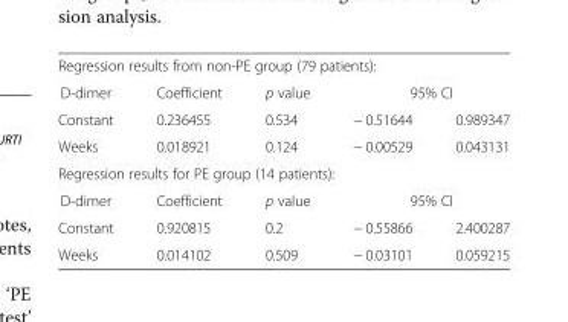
<table><tbody><tr><td colspan="5">Regression results from non-PE group (79 patients):</td></tr><tr><td>D-dimer</td><td>Coefficient</td><td>p value</td><td colspan="2">95% CI</td></tr><tr><td>Constant</td><td>0.236455</td><td>0.534</td><td>− 0.51644</td><td>0.989347</td></tr><tr><td>Weeks</td><td>0.018921</td><td>0.124</td><td>− 0.00529</td><td>0.043131</td></tr><tr><td colspan="5">Regression results for PE group (14 patients):</td></tr><tr><td>D-dimer</td><td>Coefficient</td><td>p value</td><td colspan="2">95% CI</td></tr><tr><td>Constant</td><td>0.920815</td><td>0.2</td><td>− 0.55866</td><td>2.400287</td></tr><tr><td>Weeks</td><td>0.014102</td><td>0.509</td><td>− 0.03101</td><td>0.059215</td></tr></tbody></table>